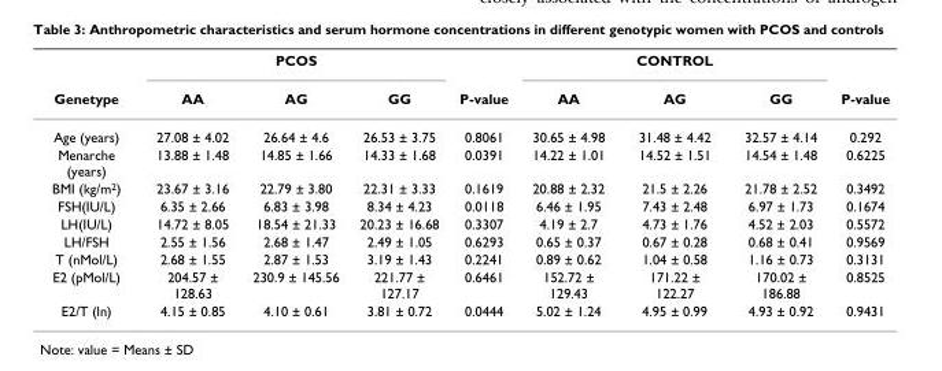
<table><thead><tr><td rowspan="2">Genetype</td><td colspan="3">PCOS</td><td rowspan="2">P-value</td><td colspan="3">CONTROL</td><td rowspan="2">P-value</td></tr><tr><td>AA</td><td>AG</td><td>GG</td><td>AA</td><td>AG</td><td>GG</td></tr></thead><tbody><tr><td>Age (years)</td><td>27.08 ± 4.02</td><td>26.64 ± 4.6</td><td>26.53 ± 3.75</td><td>0.8061</td><td>30.65 ± 4.98</td><td>31.48 ± 4.42</td><td>32.57 ± 4.14</td><td>0.292</td></tr><tr><td>Menarche (years)</td><td>13.88 ± 1.48</td><td>14.85 ± 1.66</td><td>14.33 ± 1.68</td><td>0.0391</td><td>14.22 ± 1.01</td><td>14.52 ± 1.51</td><td>14.54 ± 1.48</td><td>0.6225</td></tr><tr><td>BMI (kg/m<sup>2</sup>)</td><td>23.67 ± 3.16</td><td>22.79 ± 3.80</td><td>22.31 ± 3.33</td><td>0.1619</td><td>20.88 ± 2.32</td><td>21.5 ± 2.26</td><td>21.78 ± 2.52</td><td>0.3492</td></tr><tr><td>FSH(IU/L)</td><td>6.35 ± 2.66</td><td>6.83 ± 3.98</td><td>8.34 ± 4.23</td><td>0.0118</td><td>6.46 ± 1.95</td><td>7.43 ± 2.48</td><td>6.97 ± 1.73</td><td>0.1674</td></tr><tr><td>LH(IU/L)</td><td>14.72 ± 8.05</td><td>18.54 ± 21.33</td><td>20.23 ± 16.68</td><td>0.3307</td><td>4.19 ± 2.7</td><td>4.73 ± 1.76</td><td>4.52 ± 2.03</td><td>0.5572</td></tr><tr><td>LH/FSH</td><td>2.55 ± 1.56</td><td>2.68 ± 1.47</td><td>2.49 ± 1.05</td><td>0.6293</td><td>0.65 ± 0.37</td><td>0.67 ± 0.28</td><td>0.68 ± 0.41</td><td>0.9569</td></tr><tr><td>T (nMol/L)</td><td>2.68 ± 1.55</td><td>2.87 ± 1.53</td><td>3.19 ± 1.43</td><td>0.2241</td><td>0.89 ± 0.62</td><td>1.04 ± 0.58</td><td>1.16 ± 0.73</td><td>0.3131</td></tr><tr><td>E2 (pMol/L)</td><td>204.57 ± 128.63</td><td>230.9 ± 145.56</td><td>221.77 ± 127.17</td><td>0.6461</td><td>152.72 ± 129.43</td><td>171.22 ± 122.27</td><td>170.02 ± 186.88</td><td>0.8525</td></tr><tr><td>E2/T (ln)</td><td>4.15 ± 0.85</td><td>4.10 ± 0.61</td><td>3.81 ± 0.72</td><td>0.0444</td><td>5.02 ± 1.24</td><td>4.95 ± 0.99</td><td>4.93 ± 0.92</td><td>0.9431</td></tr></tbody></table>